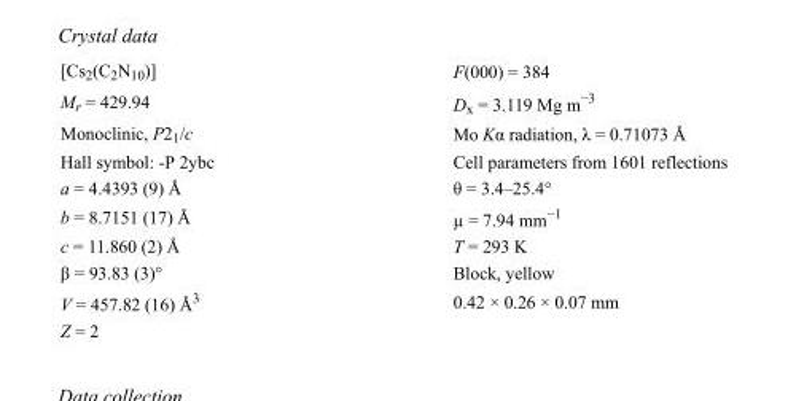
<table><tbody><tr><td>[Cs<sub>2</sub>(C<sub>2</sub>N<sub>10</sub>)]</td><td>F(000) = 384</td></tr><tr><td>M<sub>r</sub> = 429.94</td><td>D<sub>x</sub> = 3.119 Mg m<sup>−3</sup></td></tr><tr><td>Monoclinic, P2<sub>1</sub>/c</td><td>Mo Kα radiation, λ = 0.71073 Å</td></tr><tr><td>Hall symbol: -P 2ybc</td><td>Cell parameters from 1601 reflections</td></tr><tr><td>a = 4.4393 (9) Å</td><td>θ = 3.4–25.4°</td></tr><tr><td>b = 8.7151 (17) Å</td><td>µ = 7.94 mm<sup>−1</sup></td></tr><tr><td>c = 11.860 (2) Å</td><td>T = 293 K</td></tr><tr><td>β = 93.83 (3)°</td><td>Block, yellow</td></tr><tr><td>V = 457.82 (16) Å<sup>3</sup></td><td>0.42 × 0.26 × 0.07 mm</td></tr><tr><td>Z = 2</td><td></td></tr></tbody></table>